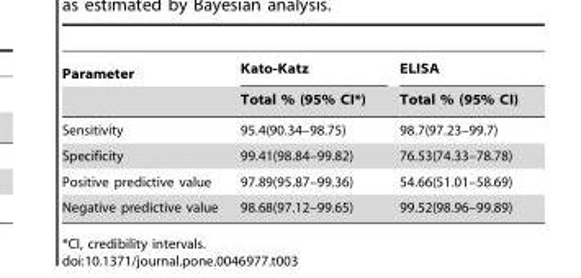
<table><thead><tr><td rowspan="2">Parameter</td><td rowspan="2">Kato-Katz Total % (95% CI*)</td><td rowspan="2">ELISA Total % (95% CI)</td></tr><tr></tr></thead><tbody><tr><td>Sensitivity</td><td>95.4(90.34–98.75)</td><td>98.7(97.23–99.7)</td></tr><tr><td>Specificity</td><td>99.41(98.84–99.82)</td><td>76.53(74.33–78.78)</td></tr><tr><td>Positive predictive value</td><td>97.89(95.87–99.36)</td><td>54.66(51.01–58.69)</td></tr><tr><td>Negative predictive value</td><td>98.68(97.12–99.65)</td><td>99.52(98.96–99.89)</td></tr></tbody></table>